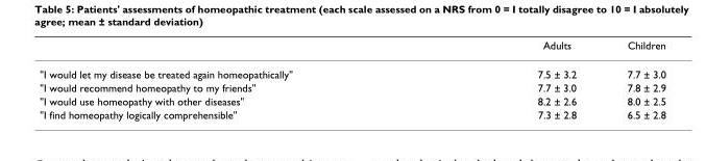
<table><thead><tr><td></td><td>Adults</td><td>Children</td></tr></thead><tbody><tr><td>&quot;I would let my disease be treated again homeopathically&quot;</td><td>7.5 ± 3.2</td><td>7.7 ± 3.0</td></tr><tr><td>&quot;I would recommend homeopathy to my friends&quot;</td><td>7.7 ± 3.0</td><td>7.8 ± 2.9</td></tr><tr><td>&quot;I would use homeopathy with other diseases&quot;</td><td>8.2 ± 2.6</td><td>8.0 ± 2.5</td></tr><tr><td>&quot;I find homeopathy logically comprehensible&quot;</td><td>7.3 ± 2.8</td><td>6.5 ± 2.8</td></tr></tbody></table>